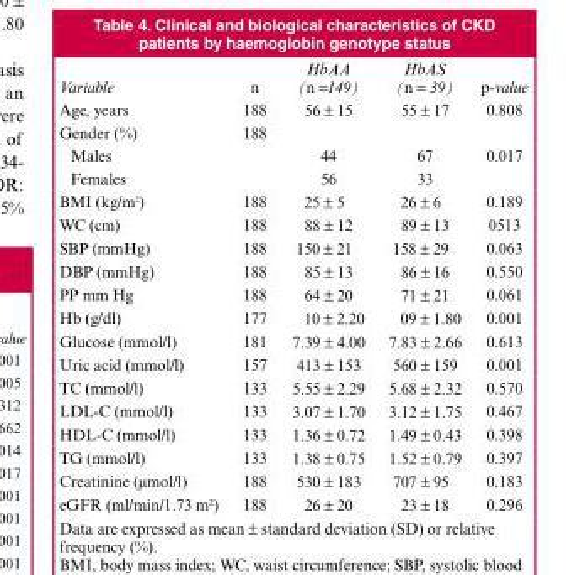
<table><thead><tr><td>Variable</td><td>n</td><td>HbAA (n =149)</td><td>HbAS (n = 39)</td><td>p-value</td></tr></thead><tbody><tr><td>Age, years</td><td>188</td><td>56 ± 15</td><td>55 ± 17</td><td>0.808</td></tr><tr><td>Gender (%)</td><td>188</td><td></td><td></td><td></td></tr><tr><td>Males</td><td></td><td>44</td><td>67</td><td>0.017</td></tr><tr><td>Females</td><td></td><td>56</td><td>33</td><td></td></tr><tr><td>BMI (kg/m2)</td><td>188</td><td>25 ± 5</td><td>26 ± 6</td><td>0.189</td></tr><tr><td>WC (cm)</td><td>188</td><td>88 ± 12</td><td>89 ± 13</td><td>0513</td></tr><tr><td>SBP (mmHg)</td><td>188</td><td>150 ± 21</td><td>158 ± 29</td><td>0.063</td></tr><tr><td>DBP (mmHg)</td><td>188</td><td>85 ± 13</td><td>86 ± 16</td><td>0.550</td></tr><tr><td>PP mm Hg</td><td>188</td><td>64 ± 20</td><td>71 ± 21</td><td>0.061</td></tr><tr><td>Hb (g/dl)</td><td>177</td><td>10 ± 2.20</td><td>09 ± 1.80</td><td>0.001</td></tr><tr><td>Glucose (mmol/l)</td><td>181</td><td>7.39 ± 4.00</td><td>7.83 ± 2.66</td><td>0.613</td></tr><tr><td>Uric acid (mmol/l)</td><td>157</td><td>413 ± 153</td><td>560 ± 159</td><td>0.001</td></tr><tr><td>TC (mmol/l)</td><td>133</td><td>5.55 ± 2.29</td><td>5.68 ± 2.32</td><td>0.570</td></tr><tr><td>LDL-C (mmol/l)</td><td>133</td><td>3.07 ± 1.70</td><td>3.12 ± 1.75</td><td>0.467</td></tr><tr><td>HDL-C (mmol/l)</td><td>133</td><td>1.36 ± 0.72</td><td>1.49 ± 0.43</td><td>0.398</td></tr><tr><td>TG (mmol/l)</td><td>133</td><td>1.38 ± 0.75</td><td>1.52 ± 0.79</td><td>0.397</td></tr><tr><td>Creatinine (µmol/l)</td><td>188</td><td>530 ± 183</td><td>707 ± 95</td><td>0.183</td></tr><tr><td>eGFR (ml/min/1.73 m²)</td><td>188</td><td>26 ± 20</td><td>23 ± 18</td><td>0.296</td></tr></tbody></table>